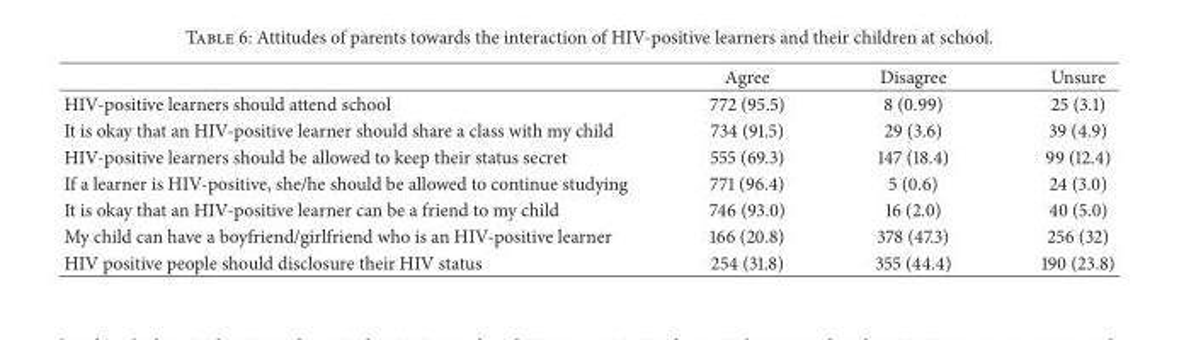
<table><thead><tr><td></td><td>Agree</td><td>Disagree</td><td>Unsure</td></tr></thead><tbody><tr><td>HIV-positive learners should attend school</td><td>772 (95.5)</td><td>8 (0.99)</td><td>25 (3.1)</td></tr><tr><td>It is okay that an HIV-positive learner should share a class with my child</td><td>734 (91.5)</td><td>29 (3.6)</td><td>39 (4.9)</td></tr><tr><td>HIV-positive learners should be allowed to keep their status secret</td><td>555 (69.3)</td><td>147 (18.4)</td><td>99 (12.4)</td></tr><tr><td>If a learner is HIV-positive, she/he should be allowed to continue studying</td><td>771 (96.4)</td><td>5 (0.6)</td><td>24 (3.0)</td></tr><tr><td>It is okay that an HIV-positive learner can be a friend to my child</td><td>746 (93.0)</td><td>16 (2.0)</td><td>40 (5.0)</td></tr><tr><td>My child can have a boyfriend/girlfriend who is an HIV-positive learner</td><td>166 (20.8)</td><td>378 (47.3)</td><td>256 (32)</td></tr><tr><td>HIV positive people should disclosure their HIV status</td><td>254 (31.8)</td><td>355 (44.4)</td><td>190 (23.8)</td></tr></tbody></table>